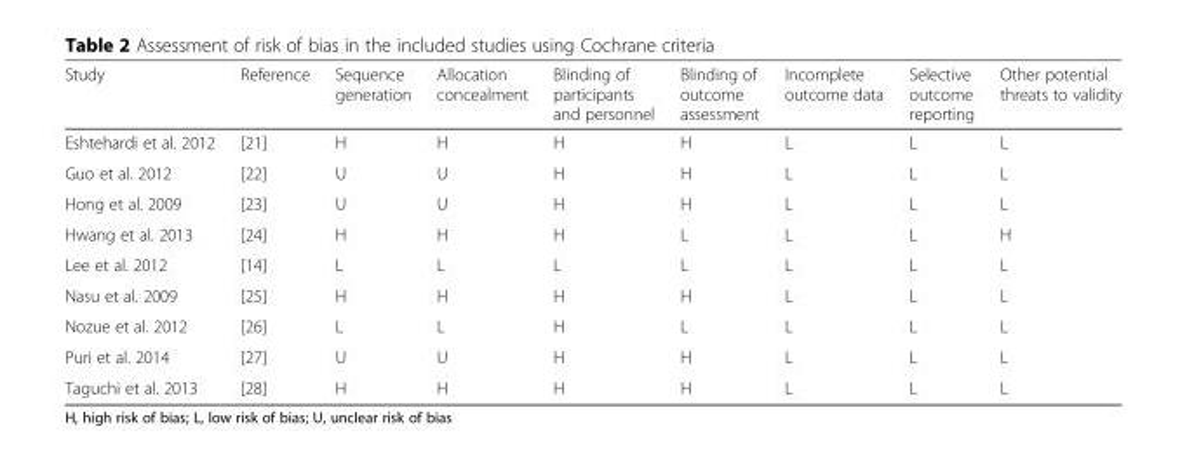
<table><thead><tr><td>Study</td><td>Reference</td><td>Sequence generation</td><td>Allocation concealment</td><td>Blinding of participants and personnel</td><td>Blinding of outcome assessment</td><td>Incomplete outcome data</td><td>Selective outcome reporting</td><td>Other potential threats to validity</td></tr></thead><tbody><tr><td>Eshtehardi et al. 2012</td><td>[21]</td><td>H</td><td>H</td><td>H</td><td>H</td><td>L</td><td>L</td><td>L</td></tr><tr><td>Guo et al. 2012</td><td>[22]</td><td>U</td><td>U</td><td>H</td><td>H</td><td>L</td><td>L</td><td>L</td></tr><tr><td>Hong et al. 2009</td><td>[23]</td><td>U</td><td>U</td><td>H</td><td>H</td><td>L</td><td>L</td><td>L</td></tr><tr><td>Hwang et al. 2013</td><td>[24]</td><td>H</td><td>H</td><td>H</td><td>L</td><td>L</td><td>L</td><td>H</td></tr><tr><td>Lee et al. 2012</td><td>[14]</td><td>L</td><td>L</td><td>L</td><td>L</td><td>L</td><td>L</td><td>L</td></tr><tr><td>Nasu et al. 2009</td><td>[25]</td><td>H</td><td>H</td><td>H</td><td>H</td><td>L</td><td>L</td><td>L</td></tr><tr><td>Nozue et al. 2012</td><td>[26]</td><td>L</td><td>L</td><td>H</td><td>L</td><td>L</td><td>L</td><td>L</td></tr><tr><td>Puri et al. 2014</td><td>[27]</td><td>U</td><td>U</td><td>H</td><td>H</td><td>L</td><td>L</td><td>L</td></tr><tr><td>Taguchi et al. 2013</td><td>[28]</td><td>H</td><td>H</td><td>H</td><td>H</td><td>L</td><td>L</td><td>L</td></tr></tbody></table>